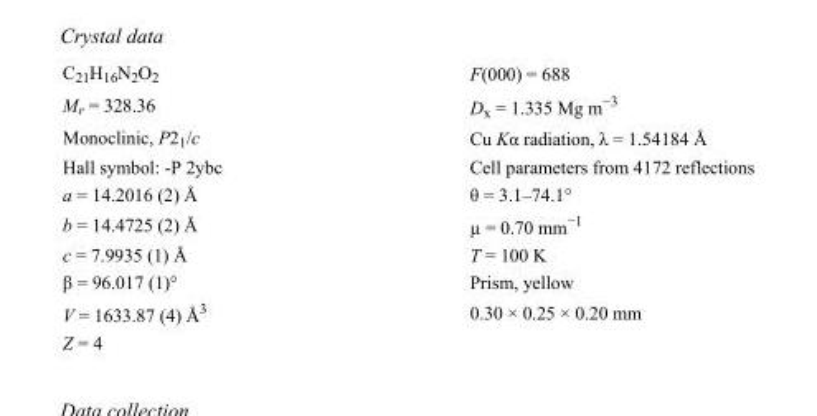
<table><tbody><tr><td>C<sub>21</sub>H<sub>16</sub>N<sub>2</sub>O<sub>2</sub></td><td>F(000) = 688</td></tr><tr><td>M<sub>r</sub> = 328.36</td><td>D<sub>x</sub> = 1.335 Mg m<sup>−3</sup></td></tr><tr><td>Monoclinic, P2<sub>1</sub>/c</td><td>Cu Kα radiation, λ = 1.54184 Å</td></tr><tr><td>Hall symbol: -P 2ybc</td><td>Cell parameters from 4172 reflections</td></tr><tr><td>a = 14.2016 (2) Å</td><td>θ = 3.1–74.1°</td></tr><tr><td>b = 14.4725 (2) Å</td><td>µ = 0.70 mm<sup>−1</sup></td></tr><tr><td>c = 7.9935 (1) Å</td><td>T = 100 K</td></tr><tr><td>β = 96.017 (1)°</td><td>Prism, yellow</td></tr><tr><td>V = 1633.87 (4) Å<sup>3</sup></td><td>0.30 × 0.25 × 0.20 mm</td></tr><tr><td>Z = 4</td><td></td></tr></tbody></table>